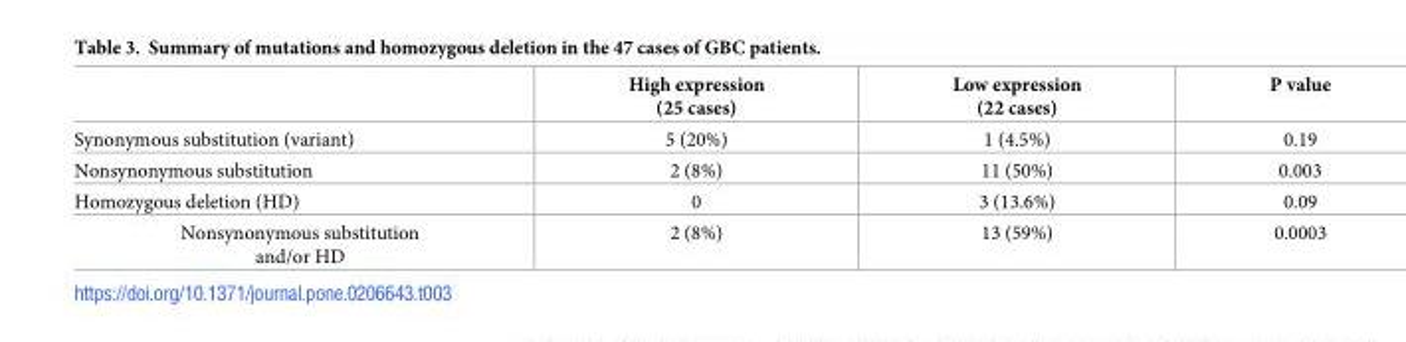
<table><thead><tr><td></td><td>High expression (25 cases)</td><td>Low expression (22 cases)</td><td>P value</td></tr></thead><tbody><tr><td>Synonymous substitution (variant)</td><td>5 (20%)</td><td>1 (4.5%)</td><td>0.19</td></tr><tr><td>Nonsynonymous substitution</td><td>2 (8%)</td><td>11 (50%)</td><td>0.003</td></tr><tr><td>Homozygous deletion (HD)</td><td>0</td><td>3 (13.6%)</td><td>0.09</td></tr><tr><td>Nonsynonymous substitution and/or HD</td><td>2 (8%)</td><td>13 (59%)</td><td>0.0003</td></tr></tbody></table>